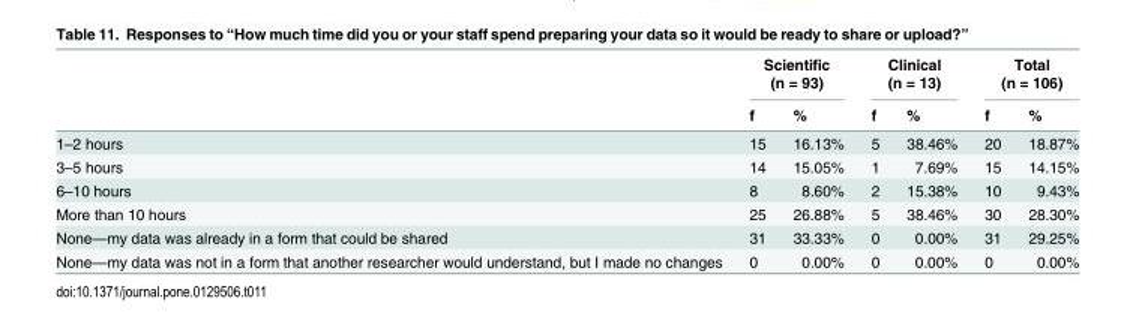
<table><thead><tr><td rowspan="2"></td><td colspan="2">Scientific (n = 93)</td><td colspan="2">Clinical (n = 13)</td><td colspan="2">Total (n = 106)</td></tr><tr><td>f</td><td>%</td><td>f</td><td>%</td><td>f</td><td>%</td></tr></thead><tbody><tr><td>1–2 hours</td><td>15</td><td>16.13%</td><td>5</td><td>38.46%</td><td>20</td><td>18.87%</td></tr><tr><td>3–5 hours</td><td>14</td><td>15.05%</td><td>1</td><td>7.69%</td><td>15</td><td>14.15%</td></tr><tr><td>6–10 hours</td><td>8</td><td>8.60%</td><td>2</td><td>15.38%</td><td>10</td><td>9.43%</td></tr><tr><td>More than 10 hours</td><td>25</td><td>26.88%</td><td>5</td><td>38.46%</td><td>30</td><td>28.30%</td></tr><tr><td>None—my data was already in a form that could be shared</td><td>31</td><td>33.33%</td><td>0</td><td>0.00%</td><td>31</td><td>29.25%</td></tr><tr><td>None—my data was not in a form that another researcher would understand, but I made no changes</td><td>0</td><td>0.00%</td><td>0</td><td>0.00%</td><td>0</td><td>0.00%</td></tr></tbody></table>